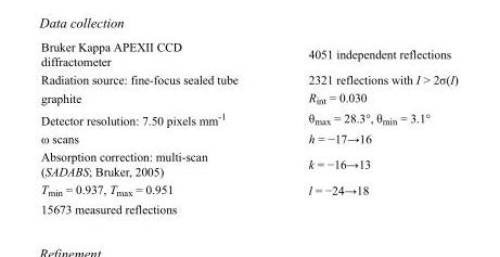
<table><tbody><tr><td>Bruker Kappa APEXII CCD diffractometer</td><td>4051 independent reflections</td></tr><tr><td>Radiation source: fine-focus sealed tube</td><td>2321 reflections with I &gt; 2σ(I)</td></tr><tr><td>graphite</td><td>R<sub>int</sub> = 0.030</td></tr><tr><td>Detector resolution: 7.50 pixels mm<sup>-1</sup></td><td>θ<sub>max</sub> = 28.3°, θ<sub>min</sub> = 3.1°</td></tr><tr><td>ω scans</td><td>h = −17→16</td></tr><tr><td>Absorption correction: multi-scan (SADABS; Bruker, 2005)</td><td>k = −16→13</td></tr><tr><td>T<sub>min</sub> = 0.937, T<sub>max</sub> = 0.951</td><td>l = −24→18</td></tr><tr><td>15673 measured reflections</td><td></td></tr></tbody></table>